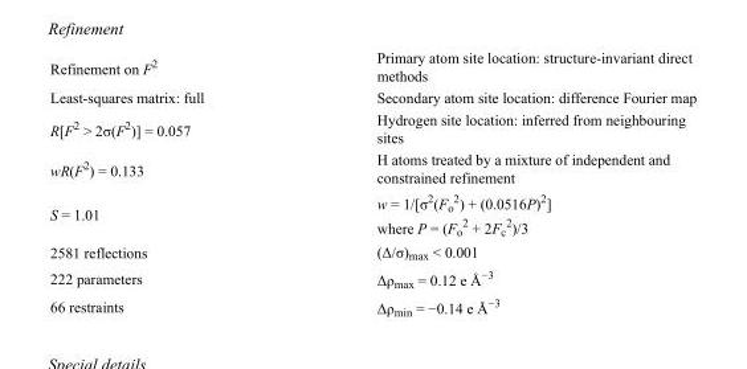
<table><tbody><tr><td>Refinement on F<sup>2</sup></td><td>Primary atom site location: structure-invariant direct methods</td></tr><tr><td>Least-squares matrix: full</td><td>Secondary atom site location: difference Fourier map</td></tr><tr><td>R[F<sup>2</sup> &gt; 2σ(F<sup>2</sup>)] = 0.057</td><td>Hydrogen site location: inferred from neighbouring sites</td></tr><tr><td>wR(F<sup>2</sup>) = 0.133</td><td>H atoms treated by a mixture of independent and constrained refinement</td></tr><tr><td>S = 1.01</td><td>w = 1/[σ<sup>2</sup>(F<sub>o</sub> <sup>2</sup>) + (0.0516P)<sup>2</sup>] where P = (F<sub>o</sub> <sup>2</sup> + 2F<sub>c</sub> <sup>2</sup>)/3</td></tr><tr><td>2581 reflections</td><td>(Δ/σ)<sub>max</sub> &lt; 0.001</td></tr><tr><td>222 parameters</td><td>Δρ<sub>max</sub> = 0.12 e Å<sup>−3</sup></td></tr><tr><td>66 restraints</td><td>Δρ<sub>min</sub> = −0.14 e Å<sup>−3</sup></td></tr></tbody></table>